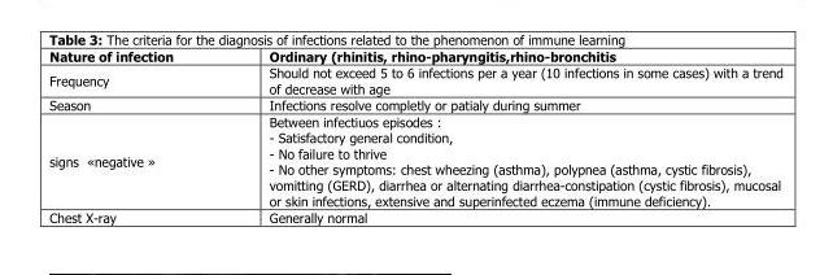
<table><thead><tr><td>Nature of infection</td><td>Ordinary (rhinitis, rhino-pharyngitis,rhino-bronchitis</td></tr></thead><tbody><tr><td>Frequency</td><td>Should not exceed 5 to 6 infections per a year (10 infections in some cases) with a trend of decrease with age</td></tr><tr><td>Season</td><td>Infections resolve completly or patialy during summer</td></tr><tr><td>signs «negative »</td><td>Between infectiuos episodes : - Satisfactory general condition, - No failure to thrive - No other symptoms: chest wheezing (asthma), polypnea (asthma, cystic fibrosis), vomitting (GERD), diarrhea or alternating diarrhea-constipation (cystic fibrosis), mucosal or skin infections, extensive and superinfected eczema (immune deficiency).</td></tr><tr><td>Chest X-ray</td><td>Generally normal</td></tr></tbody></table>